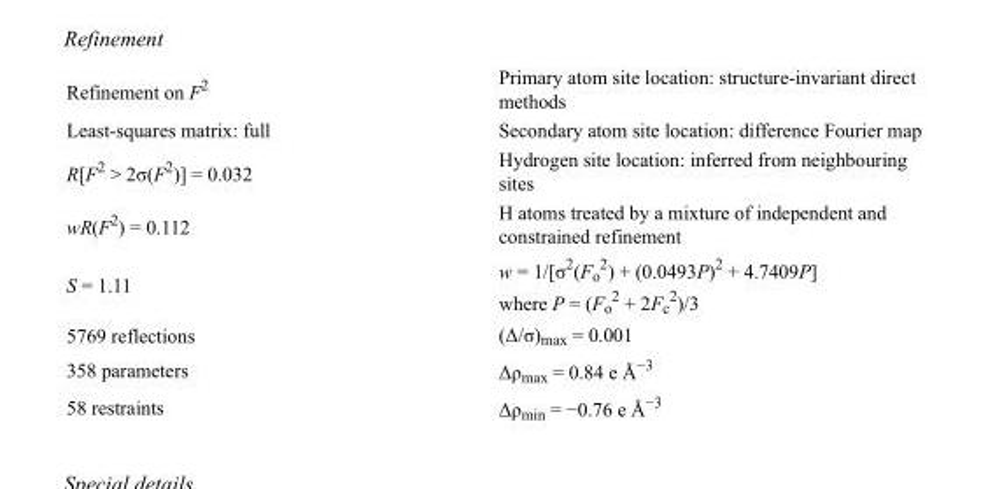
<table><tbody><tr><td>Refinement on F<sup>2</sup></td><td>Primary atom site location: structure-invariant direct methods</td></tr><tr><td>Least-squares matrix: full</td><td>Secondary atom site location: difference Fourier map</td></tr><tr><td>R[F<sup>2</sup> &gt; 2σ(F<sup>2</sup>)] = 0.032</td><td>Hydrogen site location: inferred from neighbouring sites</td></tr><tr><td>wR(F<sup>2</sup>) = 0.112</td><td>H atoms treated by a mixture of independent and constrained refinement</td></tr><tr><td>S = 1.11</td><td>w = 1/[σ<sup>2</sup>(F<sub>o</sub> <sup>2</sup>) + (0.0493P)<sup>2</sup> + 4.7409P] where P = (F<sub>o</sub> <sup>2</sup> + 2F<sub>c</sub> <sup>2</sup>)/3</td></tr><tr><td>5769 reflections</td><td>(Δ/σ)<sub>max</sub> = 0.001</td></tr><tr><td>358 parameters</td><td>Δρ<sub>max</sub> = 0.84 e Å<sup>−3</sup></td></tr><tr><td>58 restraints</td><td>Δρ<sub>min</sub> = −0.76 e Å<sup>−3</sup></td></tr></tbody></table>